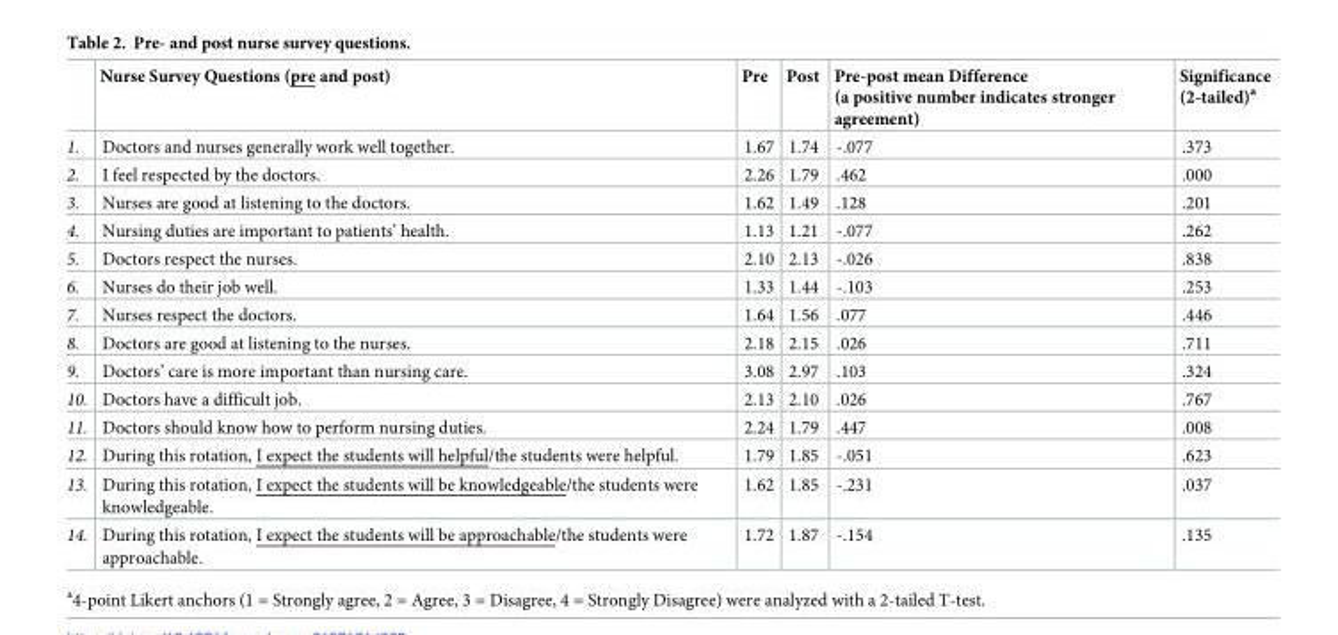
<table><thead><tr><td></td><td>Nurse Survey Questions (pre and post)</td><td>Pre</td><td>Post</td><td>Pre-post mean Difference (a positive number indicates stronger agreement)</td><td>Significance (2-tailed)<sup>a</sup></td></tr></thead><tbody><tr><td>1.</td><td>Doctors and nurses generally work well together.</td><td>1.67</td><td>1.74</td><td>-.077</td><td>.373</td></tr><tr><td>2.</td><td>I feel respected by the doctors.</td><td>2.26</td><td>1.79</td><td>.462</td><td>.000</td></tr><tr><td>3.</td><td>Nurses are good at listening to the doctors.</td><td>1.62</td><td>1.49</td><td>.128</td><td>.201</td></tr><tr><td>4.</td><td>Nursing duties are important to patients’ health.</td><td>1.13</td><td>1.21</td><td>-.077</td><td>.262</td></tr><tr><td>5.</td><td>Doctors respect the nurses.</td><td>2.10</td><td>2.13</td><td>-.026</td><td>.838</td></tr><tr><td>6.</td><td>Nurses do their job well.</td><td>1.33</td><td>1.44</td><td>-.103</td><td>.253</td></tr><tr><td>7.</td><td>Nurses respect the doctors.</td><td>1.64</td><td>1.56</td><td>.077</td><td>.446</td></tr><tr><td>8.</td><td>Doctors are good at listening to the nurses.</td><td>2.18</td><td>2.15</td><td>.026</td><td>.711</td></tr><tr><td>9.</td><td>Doctors’ care is more important than nursing care.</td><td>3.08</td><td>2.97</td><td>.103</td><td>.324</td></tr><tr><td>10.</td><td>Doctors have a difficult job.</td><td>2.13</td><td>2.10</td><td>.026</td><td>.767</td></tr><tr><td>11.</td><td>Doctors should know how to perform nursing duties.</td><td>2.24</td><td>1.79</td><td>.447</td><td>.008</td></tr><tr><td>12.</td><td>During this rotation, I expect the students will helpful/the students were helpful.</td><td>1.79</td><td>1.85</td><td>-.051</td><td>.623</td></tr><tr><td>13.</td><td>During this rotation, I expect the students will be knowledgeable/the students were knowledgeable.</td><td>1.62</td><td>1.85</td><td>-.231</td><td>.037</td></tr><tr><td>14.</td><td>During this rotation, I expect the students will be approachable/the students were approachable.</td><td>1.72</td><td>1.87</td><td>-.154</td><td>.135</td></tr></tbody></table>